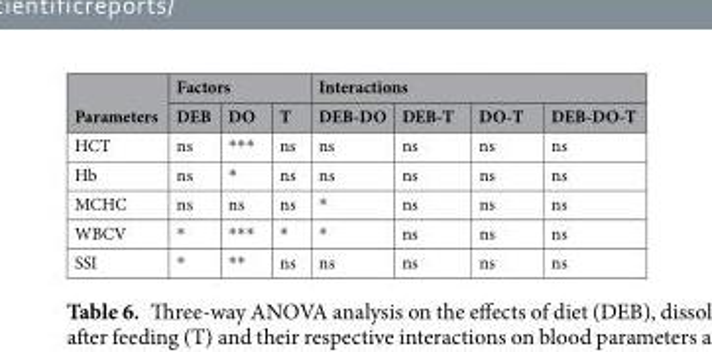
<table><thead><tr><td rowspan="2">Parameters</td><td colspan="3">Factors</td><td colspan="4">Interactions</td></tr><tr><td>DEB</td><td>DO</td><td>T</td><td>DEB-DO</td><td>DEB-T</td><td>DO-T</td><td>DEB-DO-T</td></tr></thead><tbody><tr><td>HCT</td><td>ns</td><td>***</td><td>ns</td><td>ns</td><td>ns</td><td>ns</td><td>ns</td></tr><tr><td>Hb</td><td>ns</td><td>*</td><td>ns</td><td>ns</td><td>ns</td><td>ns</td><td>ns</td></tr><tr><td>MCHC</td><td>ns</td><td>ns</td><td>ns</td><td>*</td><td>ns</td><td>ns</td><td>ns</td></tr><tr><td>WBCV</td><td>*</td><td>***</td><td>*</td><td>*</td><td>ns</td><td>ns</td><td>ns</td></tr><tr><td>SSI</td><td>*</td><td>**</td><td>ns</td><td>ns</td><td>ns</td><td>ns</td><td>ns</td></tr></tbody></table>